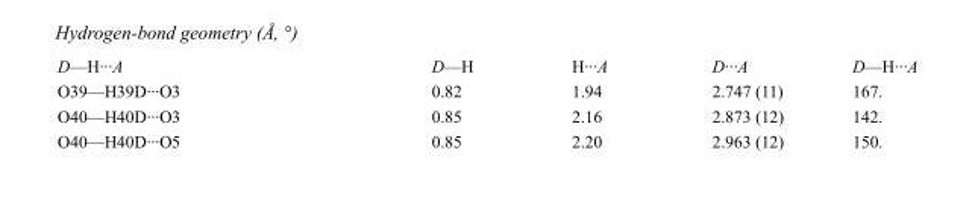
<table><tbody><tr><td>D—H···A</td><td>D—H</td><td>H···A</td><td>D···A</td><td>D—H···A</td></tr><tr><td>O39—H39D···O3</td><td>0.82</td><td>1.94</td><td>2.747 (11)</td><td>167.</td></tr><tr><td>O40—H40D···O3</td><td>0.85</td><td>2.16</td><td>2.873 (12)</td><td>142.</td></tr><tr><td>O40—H40D···O5</td><td>0.85</td><td>2.20</td><td>2.963 (12)</td><td>150.</td></tr></tbody></table>